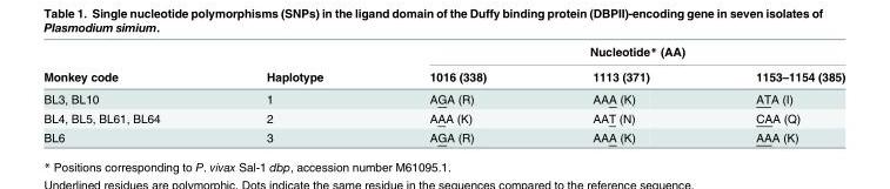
<table><thead><tr><td rowspan="2">Monkey code</td><td rowspan="2">Haplotype</td><td colspan="3">Nucleotide* (AA)</td></tr><tr><td>1016 (338)</td><td>1113 (371)</td><td>1153–1154 (385)</td></tr></thead><tbody><tr><td>BL3, BL10</td><td>1</td><td>AGA (R)</td><td>AAA (K)</td><td>ATA (I)</td></tr><tr><td>BL4, BL5, BL61, BL64</td><td>2</td><td>AAA (K)</td><td>AAT (N)</td><td>CAA (Q)</td></tr><tr><td>BL6</td><td>3</td><td>AGA (R)</td><td>AAA (K)</td><td>AAA (K)</td></tr></tbody></table>